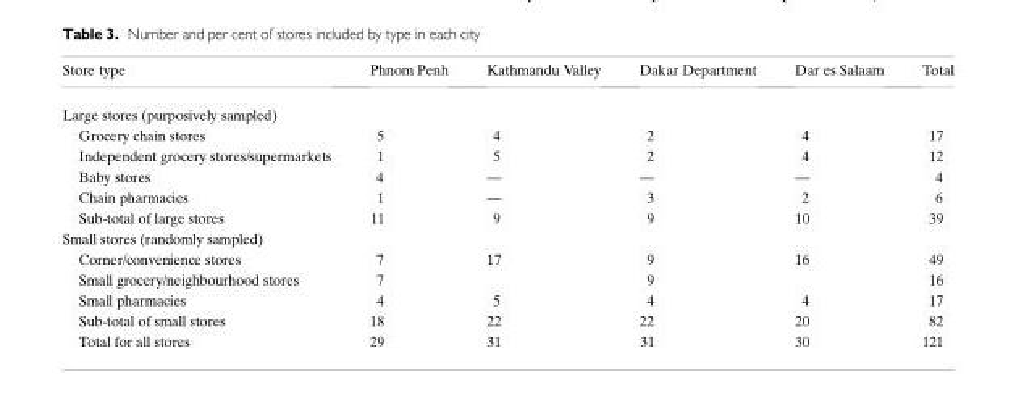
<table><thead><tr><td>Store type</td><td>Phnom Penh</td><td>Kathmandu Valley</td><td>Dakar Department</td><td>Dar es Salaam</td><td>Total</td></tr></thead><tbody><tr><td colspan="6">Large stores (purposively sampled)</td></tr><tr><td>Grocery chain stores</td><td>5</td><td>4</td><td>2</td><td>4</td><td>17</td></tr><tr><td>Independent grocery stores/supermarkets</td><td>1</td><td>5</td><td>2</td><td>4</td><td>12</td></tr><tr><td>Baby stores</td><td>4</td><td>—</td><td>—</td><td>—</td><td>4</td></tr><tr><td>Chain pharmacies</td><td>1</td><td>—</td><td>3</td><td>2</td><td>6</td></tr><tr><td>Sub-total of large stores</td><td>11</td><td>9</td><td>9</td><td>10</td><td>39</td></tr><tr><td colspan="6">Small stores (randomly sampled)</td></tr><tr><td>Corner/convenience stores</td><td>7</td><td>17</td><td>9</td><td>16</td><td>49</td></tr><tr><td>Small grocery/neighbourhood stores</td><td>7</td><td></td><td>9</td><td></td><td>16</td></tr><tr><td>Small pharmacies</td><td>4</td><td>5</td><td>4</td><td>4</td><td>17</td></tr><tr><td>Sub-total of small stores</td><td>18</td><td>22</td><td>22</td><td>20</td><td>82</td></tr><tr><td>Total for all stores</td><td>29</td><td>31</td><td>31</td><td>30</td><td>121</td></tr></tbody></table>